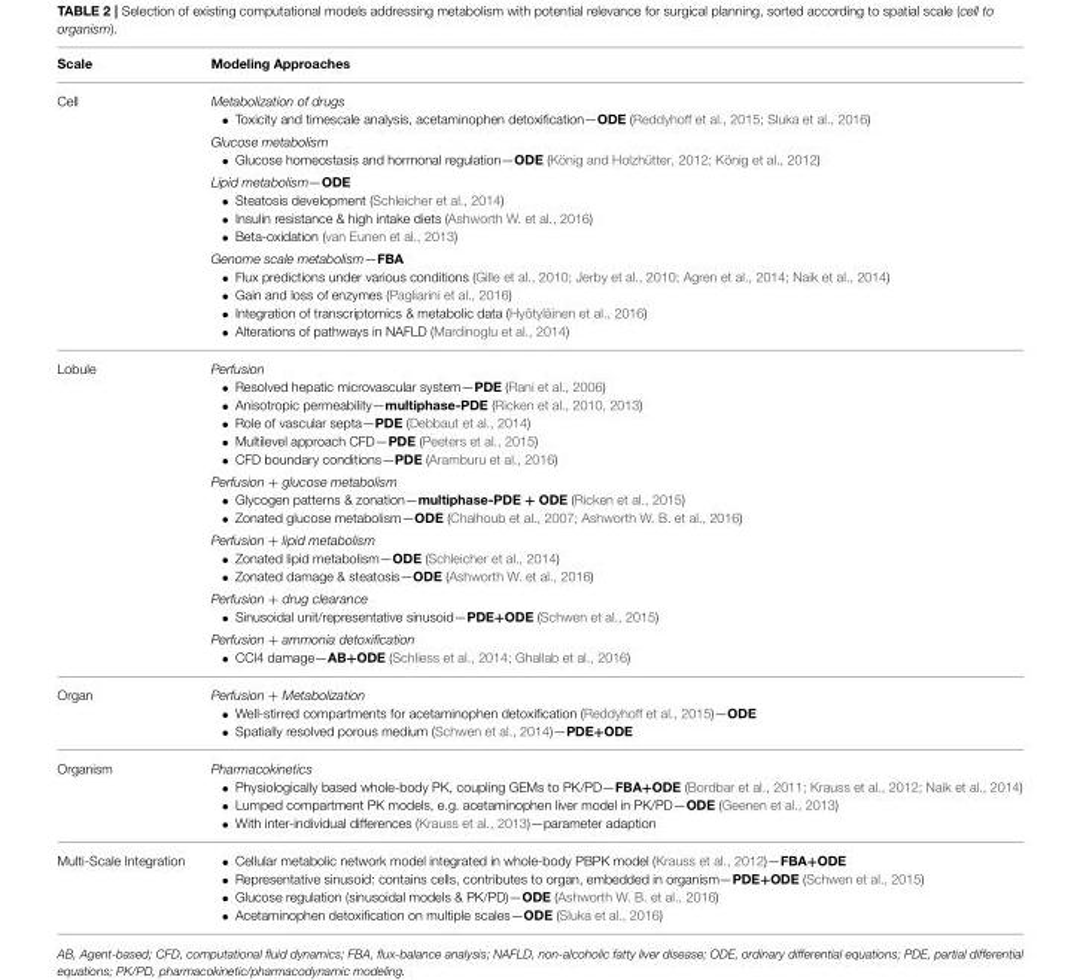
<table><thead><tr><td>Scale</td><td>Modeling Approaches</td></tr></thead><tbody><tr><td rowspan="4">Cell</td><td>Metabolization of drugs • Toxicity and timescale analysis, acetaminophen detoxification—ODE (Reddyhoff et al., 2015; Sluka et al., 2016)</td></tr><tr><td>Glucose metabolism • Glucose homeostasis and hormonal regulation—ODE (König and Holzhütter, 2012; König et al., 2012)</td></tr><tr><td>Lipid metabolism—ODE • Steatosis development (Schleicher et al., 2014) • Insulin resistance &amp; high intake diets (Ashworth W. et al., 2016) • Beta-oxidation (van Eunen et al., 2013)</td></tr><tr><td>Genome scale metabolism—FBA • Flux predictions under various conditions (Gille et al., 2010; Jerby et al., 2010; Agren et al., 2014; Naik et al., 2014) • Gain and loss of enzymes (Pagliarini et al., 2016) • Integration of transcriptomics &amp; metabolic data (Hyötyläinen et al., 2016) • Alterations of pathways in NAFLD (Mardinoglu et al., 2014)</td></tr><tr><td rowspan="5">Lobule</td><td>Perfusion • Resolved hepatic microvascular system—PDE (Rani et al., 2006) • Anisotropic permeability—multiphase-PDE (Ricken et al., 2010, 2013) • Role of vascular septa—PDE (Debbaut et al., 2014) • Multilevel approach CFD—PDE (Peeters et al., 2015) • CFD boundary conditions—PDE (Aramburu et al., 2016)</td></tr><tr><td>Perfusion + glucose metabolism • Glycogen patterns &amp; zonation—multiphase-PDE + ODE (Ricken et al., 2015) • Zonated glucose metabolism—ODE (Chalhoub et al., 2007; Ashworth W. B. et al., 2016)</td></tr><tr><td>Perfusion + lipid metabolism • Zonated lipid metabolism—ODE (Schleicher et al., 2014) • Zonated damage &amp; steatosis—ODE (Ashworth W. et al., 2016)</td></tr><tr><td>Perfusion + drug clearance • Sinusoidal unit/representative sinusoid—PDE+ODE (Schwen et al., 2015)</td></tr><tr><td>Perfusion + ammonia detoxification • CCl4 damage—AB+ODE (Schliess et al., 2014; Ghallab et al., 2016)</td></tr><tr><td>Organ</td><td>Perfusion + Metabolization • Well-stirred compartments for acetaminophen detoxification (Reddyhoff et al., 2015)—ODE • Spatially resolved porous medium (Schwen et al., 2014)—PDE+ODE</td></tr><tr><td>Organism</td><td>Pharmacokinetics • Physiologically based whole-body PK, coupling GEMs to PK/PD—FBA+ODE (Bordbar et al., 2011; Krauss et al., 2012; Naik et al., 2014) • Lumped compartment PK models, e.g. acetaminophen liver model in PK/PD—ODE (Geenen et al., 2013) • With inter-individual differences (Krauss et al., 2013)—parameter adaption</td></tr><tr><td>Multi-Scale Integration</td><td>• Cellular metabolic network model integrated in whole-body PBPK model (Krauss et al., 2012)—FBA+ODE • Representative sinusoid: contains cells, contributes to organ, embedded in organism—PDE+ODE (Schwen et al., 2015) • Glucose regulation (sinusoidal models &amp; PK/PD)—ODE (Ashworth W. B. et al., 2016) • Acetaminophen detoxification on multiple scales—ODE (Sluka et al., 2016)</td></tr></tbody></table>